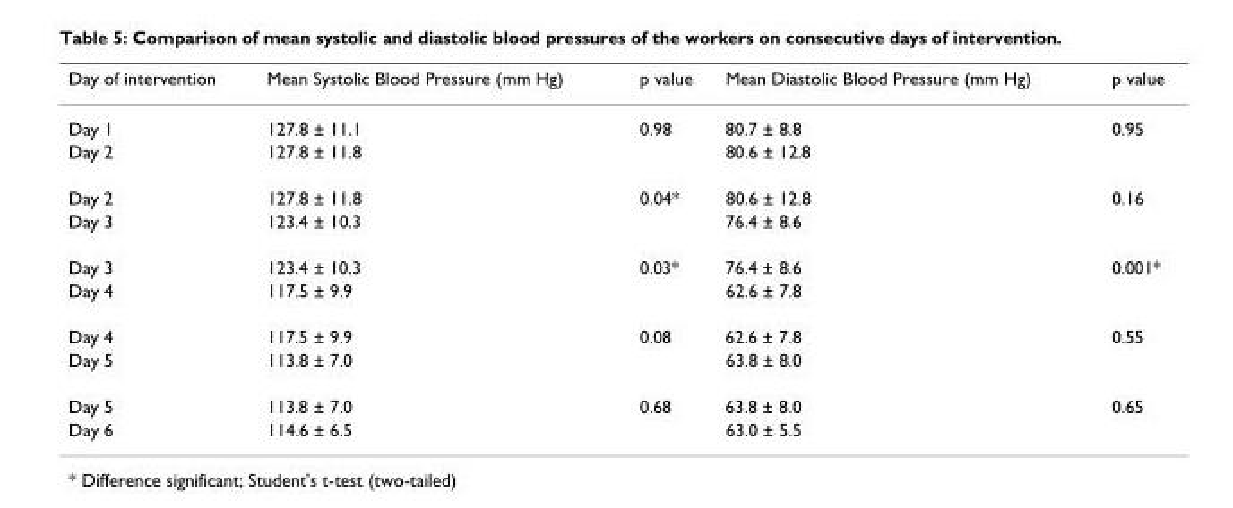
<table><thead><tr><td>Day of intervention</td><td>Mean Systolic Blood Pressure (mm Hg)</td><td>p value</td><td>Mean Diastolic Blood Pressure (mm Hg)</td><td>p value</td></tr></thead><tbody><tr><td>Day 1</td><td>127.8 ± 11.1</td><td>0.98</td><td>80.7 ± 8.8</td><td>0.95</td></tr><tr><td>Day 2</td><td>127.8 ± 11.8</td><td></td><td>80.6 ± 12.8</td><td></td></tr><tr><td>Day 2</td><td>127.8 ± 11.8</td><td>0.04*</td><td>80.6 ± 12.8</td><td>0.16</td></tr><tr><td>Day 3</td><td>123.4 ± 10.3</td><td></td><td>76.4 ± 8.6</td><td></td></tr><tr><td>Day 3</td><td>123.4 ± 10.3</td><td>0.03*</td><td>76.4 ± 8.6</td><td>0.001*</td></tr><tr><td>Day 4</td><td>117.5 ± 9.9</td><td></td><td>62.6 ± 7.8</td><td></td></tr><tr><td>Day 4</td><td>117.5 ± 9.9</td><td>0.08</td><td>62.6 ± 7.8</td><td>0.55</td></tr><tr><td>Day 5</td><td>113.8 ± 7.0</td><td></td><td>63.8 ± 8.0</td><td></td></tr><tr><td>Day 5</td><td>113.8 ± 7.0</td><td>0.68</td><td>63.8 ± 8.0</td><td>0.65</td></tr><tr><td>Day 6</td><td>114.6 ± 6.5</td><td></td><td>63.0 ± 5.5</td><td></td></tr></tbody></table>